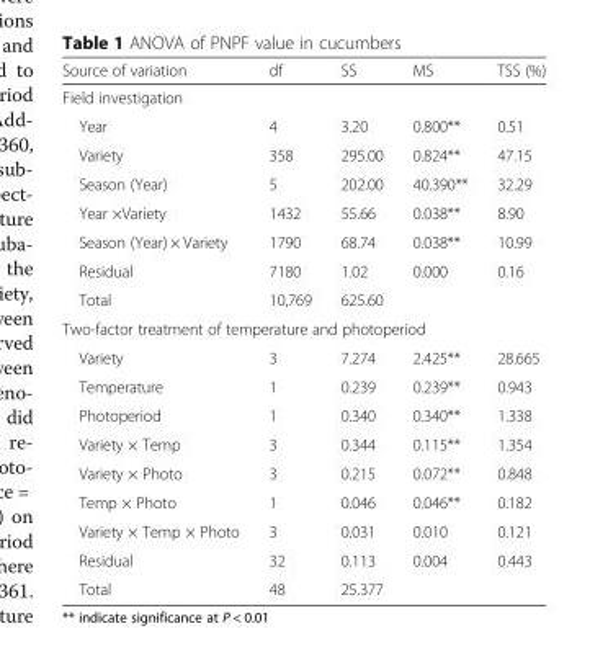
<table><thead><tr><td>Source of variation</td><td>df</td><td>SS</td><td>MS</td><td>TSS (%)</td></tr></thead><tbody><tr><td colspan="5">Field investigation</td></tr><tr><td>Year</td><td>4</td><td>3.20</td><td>0.800**</td><td>0.51</td></tr><tr><td>Variety</td><td>358</td><td>295.00</td><td>0.824**</td><td>47.15</td></tr><tr><td>Season (Year)</td><td>5</td><td>202.00</td><td>40.390**</td><td>32.29</td></tr><tr><td>Year ×Variety</td><td>1432</td><td>55.66</td><td>0.038**</td><td>8.90</td></tr><tr><td>Season (Year) × Variety</td><td>1790</td><td>68.74</td><td>0.038**</td><td>10.99</td></tr><tr><td>Residual</td><td>7180</td><td>1.02</td><td>0.000</td><td>0.16</td></tr><tr><td>Total</td><td>10,769</td><td>625.60</td><td></td><td></td></tr><tr><td colspan="5">Two-factor treatment of temperature and photoperiod</td></tr><tr><td>Variety</td><td>3</td><td>7.274</td><td>2.425**</td><td>28.665</td></tr><tr><td>Temperature</td><td>1</td><td>0.239</td><td>0.239**</td><td>0.943</td></tr><tr><td>Photoperiod</td><td>1</td><td>0.340</td><td>0.340**</td><td>1.338</td></tr><tr><td>Variety × Temp</td><td>3</td><td>0.344</td><td>0.115**</td><td>1.354</td></tr><tr><td>Variety × Photo</td><td>3</td><td>0.215</td><td>0.072**</td><td>0.848</td></tr><tr><td>Temp × Photo</td><td>1</td><td>0.046</td><td>0.046**</td><td>0.182</td></tr><tr><td>Variety × Temp × Photo</td><td>3</td><td>0.031</td><td>0.010</td><td>0.121</td></tr><tr><td>Residual</td><td>32</td><td>0.113</td><td>0.004</td><td>0.443</td></tr><tr><td>Total</td><td>48</td><td>25.377</td><td></td><td></td></tr></tbody></table>